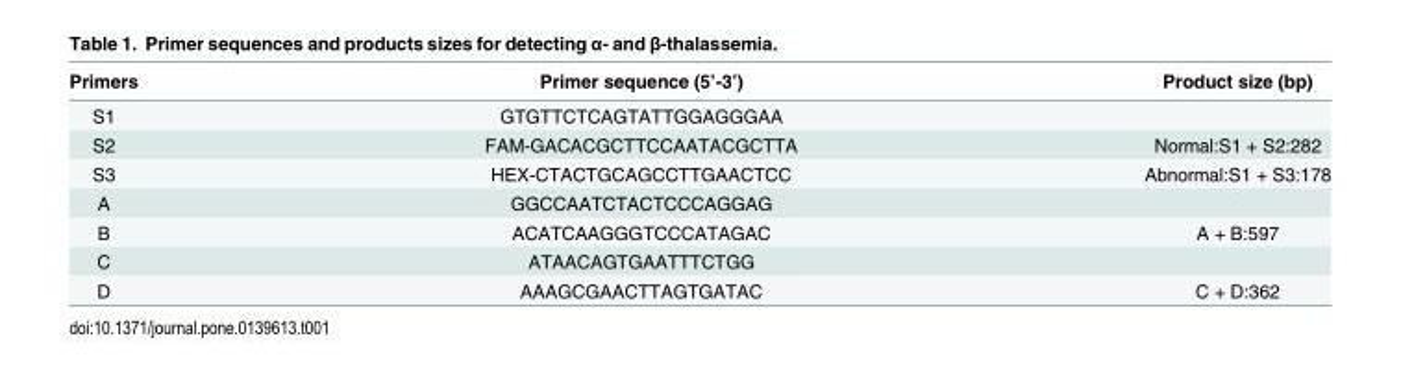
<table><thead><tr><td>Primers</td><td>Primer sequence (5’-3’)</td><td>Product size (bp)</td></tr></thead><tbody><tr><td>S1</td><td>GTGTTCTCAGTATTGGAGGGAA</td><td></td></tr><tr><td>S2</td><td>FAM-GACACGCTTCCAATACGCTTA</td><td>Normal:S1 + S2:282</td></tr><tr><td>S3</td><td>HEX-CTACTGCAGCCTTGAACTCC</td><td>Abnormal:S1 + S3:178</td></tr><tr><td>A</td><td>GGCCAATCTACTCCCAGGAG</td><td></td></tr><tr><td>B</td><td>ACATCAAGGGTCCCATAGAC</td><td>A + B:597</td></tr><tr><td>C</td><td>ATAACAGTGAATTTCTGG</td><td></td></tr><tr><td>D</td><td>AAAGCGAACTTAGTGATAC</td><td>C + D:362</td></tr></tbody></table>